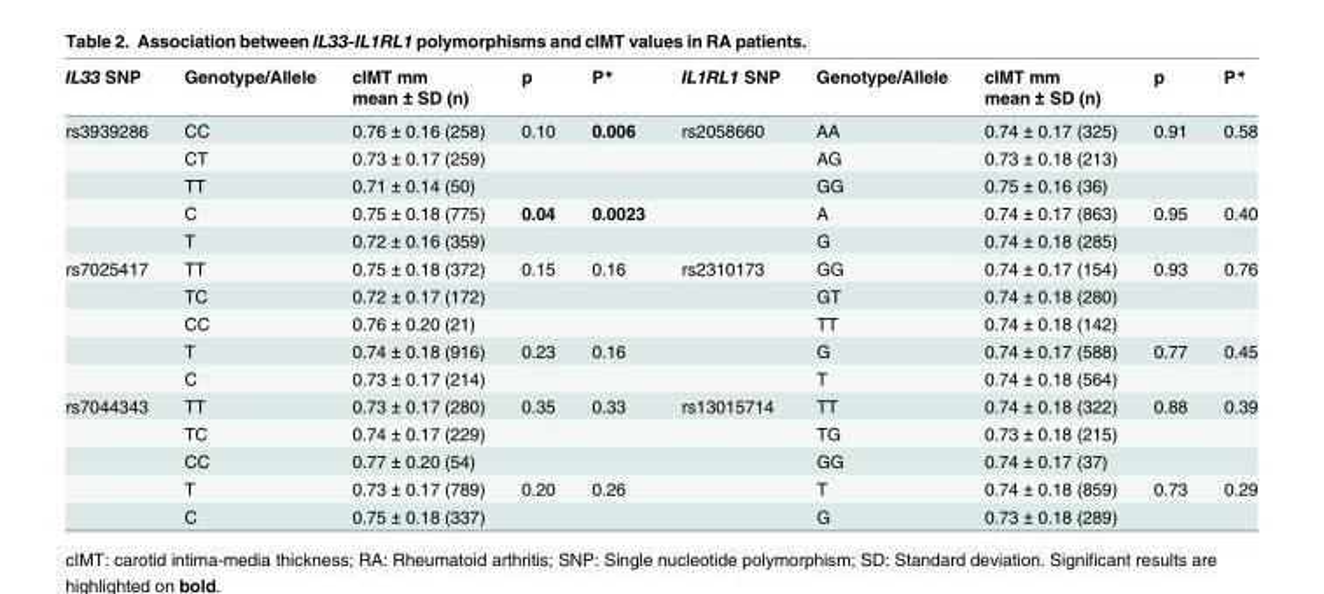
<table><thead><tr><td rowspan="2">IL33 SNP</td><td rowspan="2">Genotype/Allele</td><td rowspan="2">cIMT mm mean ± SD (n)</td><td rowspan="2">p</td><td rowspan="2">P*</td><td rowspan="2">IL1RL1 SNP</td><td rowspan="2">Genotype/Allele</td><td rowspan="2">cIMT mm mean ± SD (n)</td><td rowspan="2">p</td><td rowspan="2">P*</td></tr><tr></tr></thead><tbody><tr><td rowspan="5">rs3939286</td><td>CC</td><td>0.76 ± 0.16 (258)</td><td>0.10</td><td>0.006</td><td>rs2058660</td><td>AA</td><td>0.74 ± 0.17 (325)</td><td>0.91</td><td>0.58</td></tr><tr><td>CT</td><td>0.73 ± 0.17 (259)</td><td></td><td></td><td></td><td>AG</td><td>0.73 ± 0.18 (213)</td><td></td><td></td></tr><tr><td>TT</td><td>0.71 ± 0.14 (50)</td><td></td><td></td><td></td><td>GG</td><td>0.75 ± 0.16 (36)</td><td></td><td></td></tr><tr><td>C</td><td>0.75 ± 0.18 (775)</td><td>0.04</td><td>0.0023</td><td></td><td>A</td><td>0.74 ± 0.17 (863)</td><td>0.95</td><td>0.40</td></tr><tr><td>T</td><td>0.72 ± 0.16 (359)</td><td></td><td></td><td></td><td>G</td><td>0.74 ± 0.18 (285)</td><td></td><td></td></tr><tr><td rowspan="5">rs7025417</td><td>TT</td><td>0.75 ± 0.18 (372)</td><td>0.15</td><td>0.16</td><td>rs2310173</td><td>GG</td><td>0.74 ± 0.17 (154)</td><td>0.93</td><td>0.76</td></tr><tr><td>TC</td><td>0.72 ± 0.17 (172)</td><td></td><td></td><td></td><td>GT</td><td>0.74 ± 0.18 (280)</td><td></td><td></td></tr><tr><td>CC</td><td>0.76 ± 0.20 (21)</td><td></td><td></td><td></td><td>TT</td><td>0.74 ± 0.18 (142)</td><td></td><td></td></tr><tr><td>T</td><td>0.74 ± 0.18 (916)</td><td>0.23</td><td>0.16</td><td></td><td>G</td><td>0.74 ± 0.17 (588)</td><td>0.77</td><td>0.45</td></tr><tr><td>C</td><td>0.73 ± 0.17 (214)</td><td></td><td></td><td></td><td>T</td><td>0.74 ± 0.18 (564)</td><td></td><td></td></tr><tr><td rowspan="5">rs7044343</td><td>TT</td><td>0.73 ± 0.17 (280)</td><td>0.35</td><td>0.33</td><td>rs13015714</td><td>TT</td><td>0.74 ± 0.18 (322)</td><td>0.88</td><td>0.39</td></tr><tr><td>TC</td><td>0.74 ± 0.17 (229)</td><td></td><td></td><td></td><td>TG</td><td>0.73 ± 0.18 (215)</td><td></td><td></td></tr><tr><td>CC</td><td>0.77 ± 0.20 (54)</td><td></td><td></td><td></td><td>GG</td><td>0.74 ± 0.17 (37)</td><td></td><td></td></tr><tr><td>T</td><td>0.73 ± 0.17 (789)</td><td>0.20</td><td>0.26</td><td></td><td>T</td><td>0.74 ± 0.18 (859)</td><td>0.73</td><td>0.29</td></tr><tr><td>C</td><td>0.75 ± 0.18 (337)</td><td></td><td></td><td></td><td>G</td><td>0.73 ± 0.18 (289)</td><td></td><td></td></tr></tbody></table>